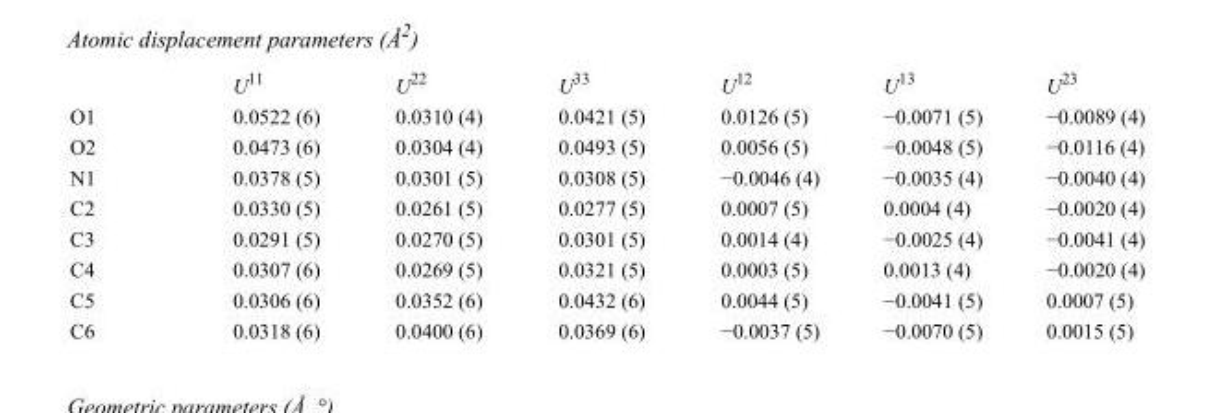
<table><thead><tr><td></td><td>U<sup>11</sup></td><td>U<sup>22</sup></td><td>U<sup>33</sup></td><td>U<sup>12</sup></td><td>U<sup>13</sup></td><td>U<sup>23</sup></td></tr></thead><tbody><tr><td>O1</td><td>0.0522 (6)</td><td>0.0310 (4)</td><td>0.0421 (5)</td><td>0.0126 (5)</td><td>−0.0071 (5)</td><td>−0.0089 (4)</td></tr><tr><td>O2</td><td>0.0473 (6)</td><td>0.0304 (4)</td><td>0.0493 (5)</td><td>0.0056 (5)</td><td>−0.0048 (5)</td><td>−0.0116 (4)</td></tr><tr><td>N1</td><td>0.0378 (5)</td><td>0.0301 (5)</td><td>0.0308 (5)</td><td>−0.0046 (4)</td><td>−0.0035 (4)</td><td>−0.0040 (4)</td></tr><tr><td>C2</td><td>0.0330 (5)</td><td>0.0261 (5)</td><td>0.0277 (5)</td><td>0.0007 (5)</td><td>0.0004 (4)</td><td>−0.0020 (4)</td></tr><tr><td>C3</td><td>0.0291 (5)</td><td>0.0270 (5)</td><td>0.0301 (5)</td><td>0.0014 (4)</td><td>−0.0025 (4)</td><td>−0.0041 (4)</td></tr><tr><td>C4</td><td>0.0307 (6)</td><td>0.0269 (5)</td><td>0.0321 (5)</td><td>0.0003 (5)</td><td>0.0013 (4)</td><td>−0.0020 (4)</td></tr><tr><td>C5</td><td>0.0306 (6)</td><td>0.0352 (6)</td><td>0.0432 (6)</td><td>0.0044 (5)</td><td>−0.0041 (5)</td><td>0.0007 (5)</td></tr><tr><td>C6</td><td>0.0318 (6)</td><td>0.0400 (6)</td><td>0.0369 (6)</td><td>−0.0037 (5)</td><td>−0.0070 (5)</td><td>0.0015 (5)</td></tr></tbody></table>